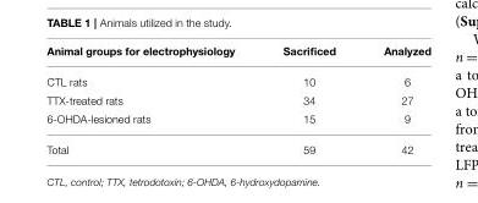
<table><thead><tr><td>Animal groups for electrophysiology</td><td>Sacrificed</td><td>Analyzed</td></tr></thead><tbody><tr><td>CTL rats</td><td>10</td><td>6</td></tr><tr><td>TTX-treated rats</td><td>34</td><td>27</td></tr><tr><td>6-OHDA-lesioned rats</td><td>15</td><td>9</td></tr><tr><td>Total</td><td>59</td><td>42</td></tr></tbody></table>